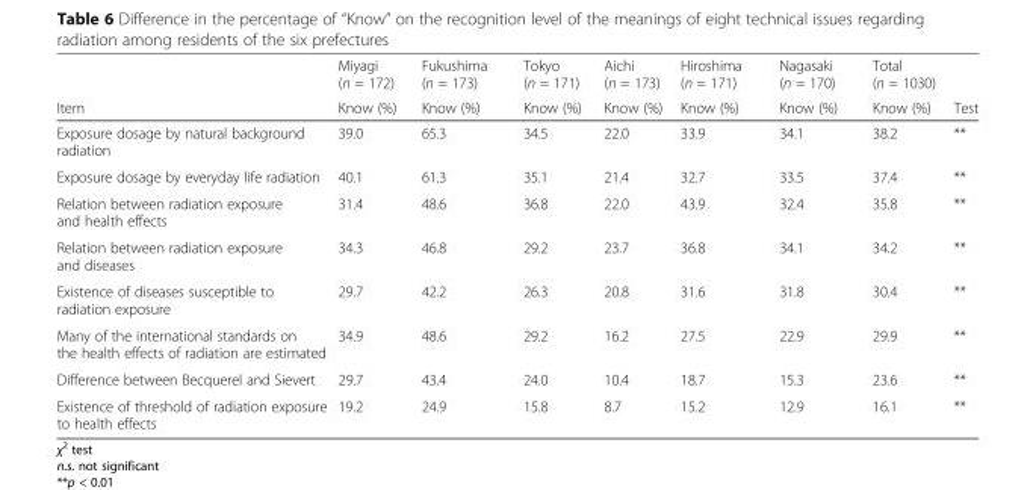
<table><thead><tr><td rowspan="2">Item</td><td rowspan="2">Miyagi (n = 172) Know (%)</td><td rowspan="2">Fukushima (n = 173) Know (%)</td><td rowspan="2">Tokyo (n = 171) Know (%)</td><td rowspan="2">Aichi (n = 173) Know (%)</td><td rowspan="2">Hiroshima (n = 171) Know (%)</td><td rowspan="2">Nagasaki (n = 170) Know (%)</td><td rowspan="2">Total (n = 1030) Know (%)</td><td rowspan="2">Test</td></tr><tr></tr></thead><tbody><tr><td>Exposure dosage by natural background radiation</td><td>39.0</td><td>65.3</td><td>34.5</td><td>22.0</td><td>33.9</td><td>34.1</td><td>38.2</td><td>**</td></tr><tr><td>Exposure dosage by everyday life radiation</td><td>40.1</td><td>61.3</td><td>35.1</td><td>21.4</td><td>32.7</td><td>33.5</td><td>37.4</td><td>**</td></tr><tr><td>Relation between radiation exposure and health effects</td><td>31.4</td><td>48.6</td><td>36.8</td><td>22.0</td><td>43.9</td><td>32.4</td><td>35.8</td><td>**</td></tr><tr><td>Relation between radiation exposure and diseases</td><td>34.3</td><td>46.8</td><td>29.2</td><td>23.7</td><td>36.8</td><td>34.1</td><td>34.2</td><td>**</td></tr><tr><td>Existence of diseases susceptible to radiation exposure</td><td>29.7</td><td>42.2</td><td>26.3</td><td>20.8</td><td>31.6</td><td>31.8</td><td>30.4</td><td>**</td></tr><tr><td>Many of the international standards on the health effects of radiation are estimated</td><td>34.9</td><td>48.6</td><td>29.2</td><td>16.2</td><td>27.5</td><td>22.9</td><td>29.9</td><td>**</td></tr><tr><td>Difference between Becquerel and Sievert</td><td>29.7</td><td>43.4</td><td>24.0</td><td>10.4</td><td>18.7</td><td>15.3</td><td>23.6</td><td>**</td></tr><tr><td>Existence of threshold of radiation exposure to health effects</td><td>19.2</td><td>24.9</td><td>15.8</td><td>8.7</td><td>15.2</td><td>12.9</td><td>16.1</td><td>**</td></tr></tbody></table>